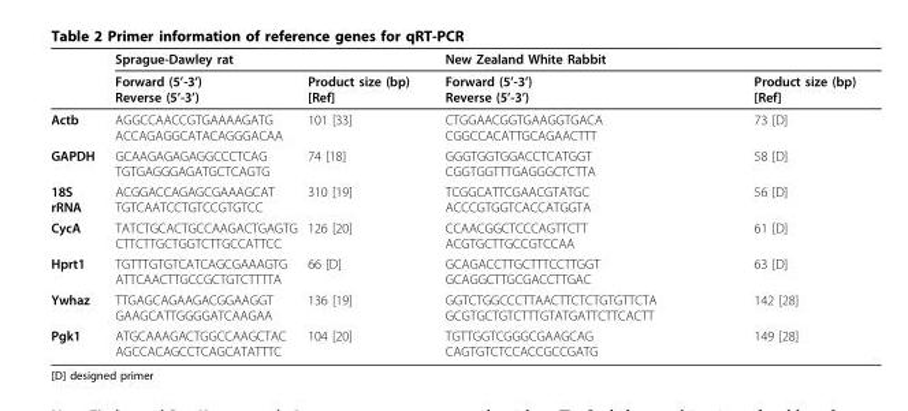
<table><thead><tr><td rowspan="2"></td><td colspan="2">Sprague-Dawley rat</td><td colspan="2">New Zealand White Rabbit</td></tr><tr><td>Forward (5’-3’) Reverse (5’-3’)</td><td>Product size (bp) [Ref]</td><td>Forward (5’-3’) Reverse (5’-3’)</td><td>Product size (bp) [Ref]</td></tr></thead><tbody><tr><td>Actb</td><td>AGGCCAACCGTGAAAAGATG ACCAGAGGCATACAGGGACAA</td><td>101 [33]</td><td>CTGGAACGGTGAAGGTGACA CGGCCACATTGCAGAACTTT</td><td>73 [D]</td></tr><tr><td>GAPDH</td><td>GCAAGAGAGAGGCCCTCAG TGTGAGGGAGATGCTCAGTG</td><td>74 [18]</td><td>GGGTGGTGGACCTCATGGT CGGTGGTTTGAGGGCTCTTA</td><td>58 [D]</td></tr><tr><td>18S rRNA</td><td>ACGGACCAGAGCGAAAGCAT TGTCAATCCTGTCCGTGTCC</td><td>310 [19]</td><td>TCGGCATTCGAACGTATGC ACCCGTGGTCACCATGGTA</td><td>56 [D]</td></tr><tr><td>CycA</td><td>TATCTGCACTGCCAAGACTGAGTG CTTCTTGCTGGTCTTGCCATTCC</td><td>126 [20]</td><td>CCAACGGCTCCCAGTTCTT ACGTGCTTGCCGTCCAA</td><td>61 [D]</td></tr><tr><td>Hprt1</td><td>TGTTTGTGTCATCAGCGAAAGTG ATTCAACTTGCCGCTGTCTTTTA</td><td>66 [D]</td><td>GCAGACCTTGCTTTCCTTGGT GCAGGCTTGCGACCTTGAC</td><td>63 [D]</td></tr><tr><td>Ywhaz</td><td>TTGAGCAGAAGACGGAAGGT GAAGCATTGGGGATCAAGAA</td><td>136 [19]</td><td>GGTCTGGCCCTTAACTTCTCTGTGTTCTA GCGTGCTGTCTTTGTATGATTCTTCACTT</td><td>142 [28]</td></tr><tr><td>Pgk1</td><td>ATGCAAAGACTGGCCAAGCTAC AGCCACAGCCTCAGCATATTTC</td><td>104 [20]</td><td>TGTTGGTCGGGCGAAGCAG CAGTGTCTCCACCGCCGATG</td><td>149 [28]</td></tr></tbody></table>